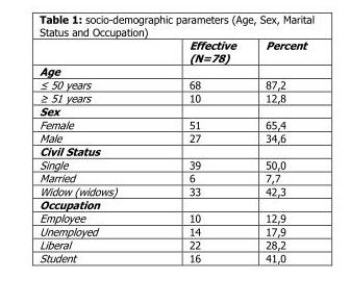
<table><thead><tr><td></td><td>Effective (N=78)</td><td>Percent</td></tr></thead><tbody><tr><td colspan="3">Age</td></tr><tr><td>≤ 50 years</td><td>68</td><td>87,2</td></tr><tr><td>≥ 51 years</td><td>10</td><td>12,8</td></tr><tr><td colspan="3">Sex</td></tr><tr><td>Female</td><td>51</td><td>65,4</td></tr><tr><td>Male</td><td>27</td><td>34,6</td></tr><tr><td colspan="3">Civil Status</td></tr><tr><td>Single</td><td>39</td><td>50,0</td></tr><tr><td>Married</td><td>6</td><td>7,7</td></tr><tr><td>Widow (widows)</td><td>33</td><td>42,3</td></tr><tr><td colspan="3">Occupation</td></tr><tr><td>Employee</td><td>10</td><td>12,9</td></tr><tr><td>Unemployed</td><td>14</td><td>17,9</td></tr><tr><td>Liberal</td><td>22</td><td>28,2</td></tr><tr><td>Student</td><td>16</td><td>41,0</td></tr></tbody></table>